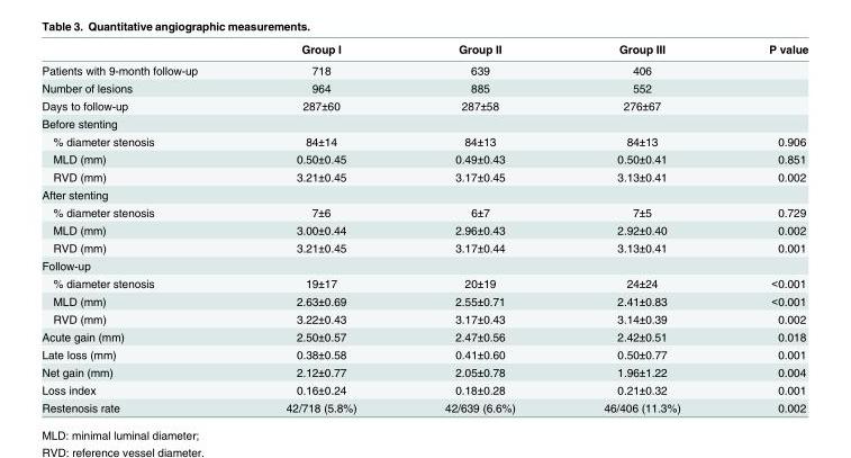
<table><thead><tr><td></td><td>Group I</td><td>Group II</td><td>Group III</td><td>P value</td></tr></thead><tbody><tr><td>Patients with 9-month follow-up</td><td>718</td><td>639</td><td>406</td><td></td></tr><tr><td>Number of lesions</td><td>964</td><td>885</td><td>552</td><td></td></tr><tr><td>Days to follow-up</td><td>287±60</td><td>287±58</td><td>276±67</td><td></td></tr><tr><td colspan="5">Before stenting</td></tr><tr><td>% diameter stenosis</td><td>84±14</td><td>84±13</td><td>84±13</td><td>0.906</td></tr><tr><td>MLD (mm)</td><td>0.50±0.45</td><td>0.49±0.43</td><td>0.50±0.41</td><td>0.851</td></tr><tr><td>RVD (mm)</td><td>3.21±0.45</td><td>3.17±0.45</td><td>3.13±0.41</td><td>0.002</td></tr><tr><td colspan="5">After stenting</td></tr><tr><td>% diameter stenosis</td><td>7±6</td><td>6±7</td><td>7±5</td><td>0.729</td></tr><tr><td>MLD (mm)</td><td>3.00±0.44</td><td>2.96±0.43</td><td>2.92±0.40</td><td>0.002</td></tr><tr><td>RVD (mm)</td><td>3.21±0.45</td><td>3.17±0.44</td><td>3.13±0.41</td><td>0.001</td></tr><tr><td colspan="5">Follow-up</td></tr><tr><td>% diameter stenosis</td><td>19±17</td><td>20±19</td><td>24±24</td><td>&lt;0.001</td></tr><tr><td>MLD (mm)</td><td>2.63±0.69</td><td>2.55±0.71</td><td>2.41±0.83</td><td>&lt;0.001</td></tr><tr><td>RVD (mm)</td><td>3.22±0.43</td><td>3.17±0.43</td><td>3.14±0.39</td><td>0.002</td></tr><tr><td>Acute gain (mm)</td><td>2.50±0.57</td><td>2.47±0.56</td><td>2.42±0.51</td><td>0.018</td></tr><tr><td>Late loss (mm)</td><td>0.38±0.58</td><td>0.41±0.60</td><td>0.50±0.77</td><td>0.001</td></tr><tr><td>Net gain (mm)</td><td>2.12±0.77</td><td>2.05±0.78</td><td>1.96±1.22</td><td>0.004</td></tr><tr><td>Loss index</td><td>0.16±0.24</td><td>0.18±0.28</td><td>0.21±0.32</td><td>0.001</td></tr><tr><td>Restenosis rate</td><td>42/718 (5.8%)</td><td>42/639 (6.6%)</td><td>46/406 (11.3%)</td><td>0.002</td></tr></tbody></table>